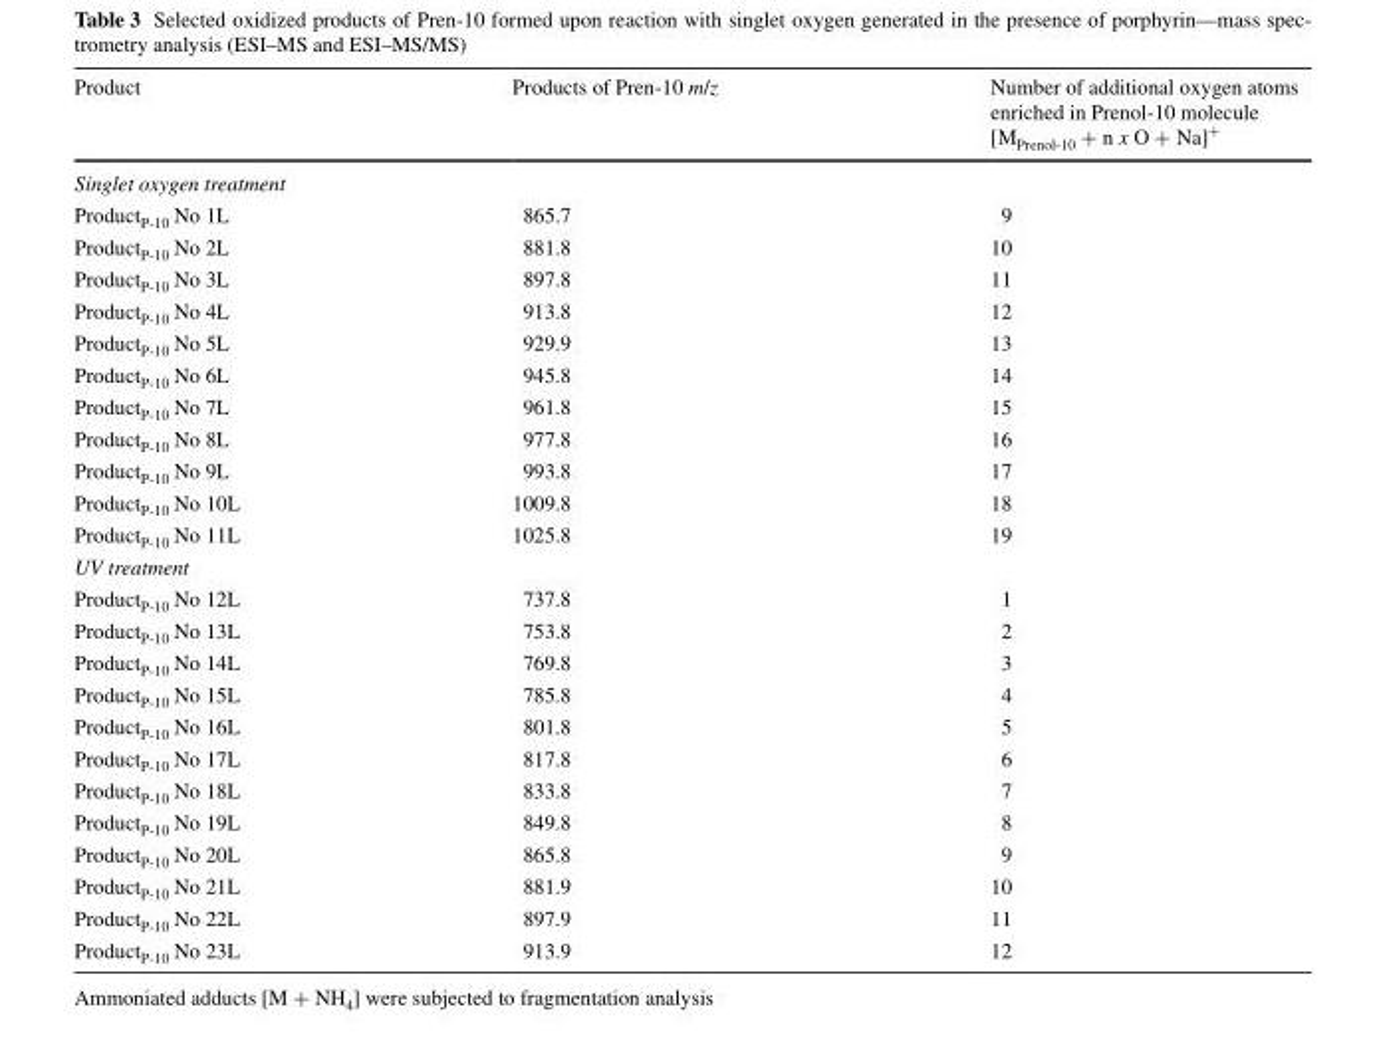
<table><thead><tr><td>Product</td><td>Products of Pren-10 m/z</td><td>Number of additional oxygen atoms enriched in Prenol-10 molecule [M<sub>Prenol-10</sub> + n x O + Na]<sup>+</sup></td></tr></thead><tbody><tr><td colspan="3">Singlet oxygen treatment</td></tr><tr><td>Product<sub>P-10</sub> No 1L</td><td>865.7</td><td>9</td></tr><tr><td>Product<sub>P-10</sub> No 2L</td><td>881.8</td><td>10</td></tr><tr><td>Product<sub>P-10</sub> No 3L</td><td>897.8</td><td>11</td></tr><tr><td>Product<sub>P-10</sub> No 4L</td><td>913.8</td><td>12</td></tr><tr><td>Product<sub>P-10</sub> No 5L</td><td>929.9</td><td>13</td></tr><tr><td>Product<sub>P-10</sub> No 6L</td><td>945.8</td><td>14</td></tr><tr><td>Product<sub>P-10</sub> No 7L</td><td>961.8</td><td>15</td></tr><tr><td>Product<sub>P-10</sub> No 8L</td><td>977.8</td><td>16</td></tr><tr><td>Product<sub>P-10</sub> No 9L</td><td>993.8</td><td>17</td></tr><tr><td>Product<sub>P-10</sub> No 10L</td><td>1009.8</td><td>18</td></tr><tr><td>Product<sub>P-10</sub> No 11L</td><td>1025.8</td><td>19</td></tr><tr><td colspan="3">UV treatment</td></tr><tr><td>Product<sub>P-10</sub> No 12L</td><td>737.8</td><td>1</td></tr><tr><td>Product<sub>P-10</sub> No 13L</td><td>753.8</td><td>2</td></tr><tr><td>Product<sub>P-10</sub> No 14L</td><td>769.8</td><td>3</td></tr><tr><td>Product<sub>P-10</sub> No 15L</td><td>785.8</td><td>4</td></tr><tr><td>Product<sub>P-10</sub> No 16L</td><td>801.8</td><td>5</td></tr><tr><td>Product<sub>P-10</sub> No 17L</td><td>817.8</td><td>6</td></tr><tr><td>Product<sub>P-10</sub> No 18L</td><td>833.8</td><td>7</td></tr><tr><td>Product<sub>P-10</sub> No 19L</td><td>849.8</td><td>8</td></tr><tr><td>Product<sub>P-10</sub> No 20L</td><td>865.8</td><td>9</td></tr><tr><td>Product<sub>P-10</sub> No 21L</td><td>881.9</td><td>10</td></tr><tr><td>Product<sub>P-10</sub> No 22L</td><td>897.9</td><td>11</td></tr><tr><td>Product<sub>P-10</sub> No 23L</td><td>913.9</td><td>12</td></tr></tbody></table>